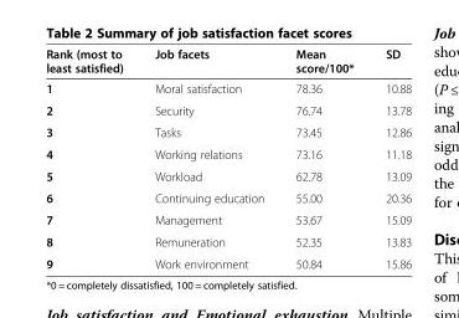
<table><thead><tr><td>Rank (most to least satisfied)</td><td>Job facets</td><td>Mean score/100*</td><td>SD</td></tr></thead><tbody><tr><td>1</td><td>Moral satisfaction</td><td>78.36</td><td>10.88</td></tr><tr><td>2</td><td>Security</td><td>76.74</td><td>13.78</td></tr><tr><td>3</td><td>Tasks</td><td>73.45</td><td>12.86</td></tr><tr><td>4</td><td>Working relations</td><td>73.16</td><td>11.18</td></tr><tr><td>5</td><td>Workload</td><td>62.78</td><td>13.09</td></tr><tr><td>6</td><td>Continuing education</td><td>55.00</td><td>20.36</td></tr><tr><td>7</td><td>Management</td><td>53.67</td><td>15.09</td></tr><tr><td>8</td><td>Remuneration</td><td>52.35</td><td>13.83</td></tr><tr><td>9</td><td>Work environment</td><td>50.84</td><td>15.86</td></tr></tbody></table>